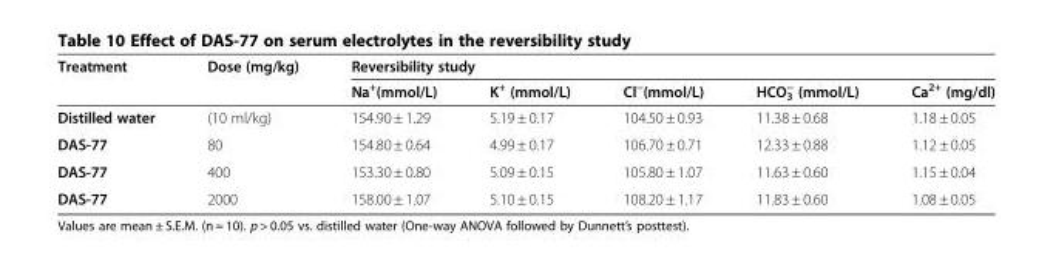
<table><thead><tr><td rowspan="2">Treatment</td><td rowspan="2">Dose (mg/kg)</td><td colspan="5">Reversibility study</td></tr><tr><td>Na<sup>+</sup>(mmol/L)</td><td>K<sup>+</sup> (mmol/L)</td><td>Cl<sup>−</sup>(mmol/L)</td><td>HCO<sub>3</sub> <sup>−</sup> (mmol/L)</td><td>Ca<sup>2+</sup> (mg/dl)</td></tr></thead><tbody><tr><td>Distilled water</td><td>(10 ml/kg)</td><td>154.90 ± 1.29</td><td>5.19 ± 0.17</td><td>104.50 ± 0.93</td><td>11.38 ± 0.68</td><td>1.18 ± 0.05</td></tr><tr><td>DAS-77</td><td>80</td><td>154.80 ± 0.64</td><td>4.99 ± 0.17</td><td>106.70 ± 0.71</td><td>12.33 ± 0.88</td><td>1.12 ± 0.05</td></tr><tr><td>DAS-77</td><td>400</td><td>153.30 ± 0.80</td><td>5.09 ± 0.15</td><td>105.80 ± 1.07</td><td>11.63 ± 0.60</td><td>1.15 ± 0.04</td></tr><tr><td>DAS-77</td><td>2000</td><td>158.00 ± 1.07</td><td>5.10 ± 0.15</td><td>108.20 ± 1.17</td><td>11.83 ± 0.60</td><td>1.08 ± 0.05</td></tr></tbody></table>